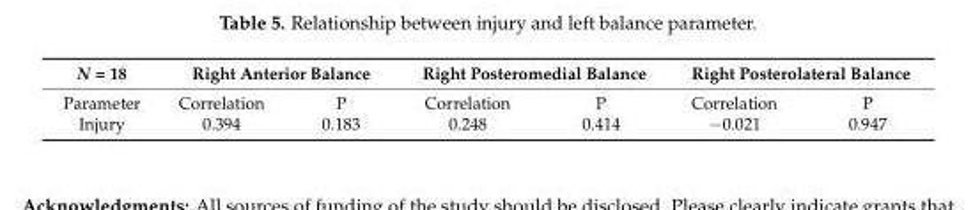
<table><thead><tr><td rowspan="2">N = 18 Parameter</td><td colspan="2">Right Anterior Balance</td><td colspan="2">Right Posteromedial Balance</td><td colspan="2">Right Posterolateral Balance</td></tr><tr><td>Correlation</td><td>P</td><td>Correlation</td><td>P</td><td>Correlation</td><td>P</td></tr></thead><tbody><tr><td>Injury</td><td>0.394</td><td>0.183</td><td>0.248</td><td>0.414</td><td>−0.021</td><td>0.947</td></tr></tbody></table>